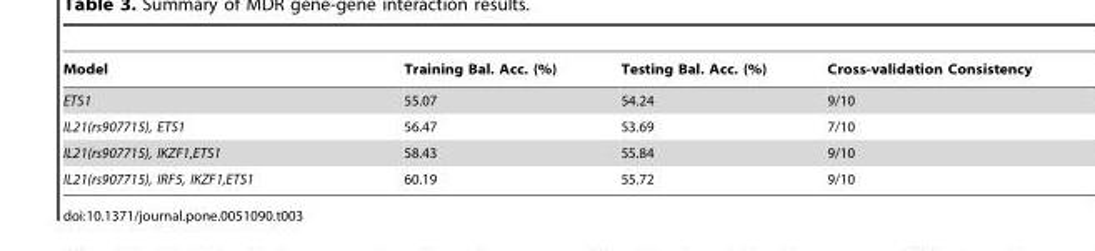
<table><thead><tr><td>Model</td><td>Training Bal. Acc. (%)</td><td>Testing Bal. Acc. (%)</td><td>Cross-validation Consistency</td></tr></thead><tbody><tr><td>ETS1</td><td>55.07</td><td>54.24</td><td>9/10</td></tr><tr><td>IL21(rs907715), ETS1</td><td>56.47</td><td>53.69</td><td>7/10</td></tr><tr><td>IL21(rs907715), IKZF1,ETS1</td><td>58.43</td><td>55.84</td><td>9/10</td></tr><tr><td>IL21(rs907715), IRF5, IKZF1,ETS1</td><td>60.19</td><td>55.72</td><td>9/10</td></tr></tbody></table>